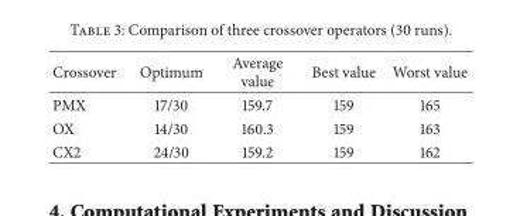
<table><thead><tr><td>Crossover</td><td>Optimum</td><td>Average value</td><td>Best value</td><td>Worst value</td></tr></thead><tbody><tr><td>PMX</td><td>17/30</td><td>159.7</td><td>159</td><td>165</td></tr><tr><td>OX</td><td>14/30</td><td>160.3</td><td>159</td><td>163</td></tr><tr><td>CX2</td><td>24/30</td><td>159.2</td><td>159</td><td>162</td></tr></tbody></table>